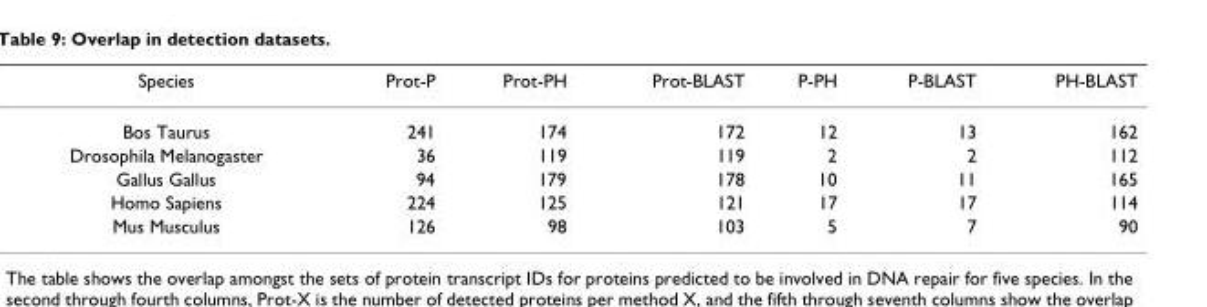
<table><thead><tr><td>Species</td><td>Prot-P</td><td>Prot-PH</td><td>Prot-BLAST</td><td>P-PH</td><td>P-BLAST</td><td>PH-BLAST</td></tr></thead><tbody><tr><td>Bos Taurus</td><td>241</td><td>174</td><td>172</td><td>12</td><td>13</td><td>162</td></tr><tr><td>Drosophila Melanogaster</td><td>36</td><td>119</td><td>119</td><td>2</td><td>2</td><td>112</td></tr><tr><td>Gallus Gallus</td><td>94</td><td>179</td><td>178</td><td>10</td><td>11</td><td>165</td></tr><tr><td>Homo Sapiens</td><td>224</td><td>125</td><td>121</td><td>17</td><td>17</td><td>114</td></tr><tr><td>Mus Musculus</td><td>126</td><td>98</td><td>103</td><td>5</td><td>7</td><td>90</td></tr></tbody></table>